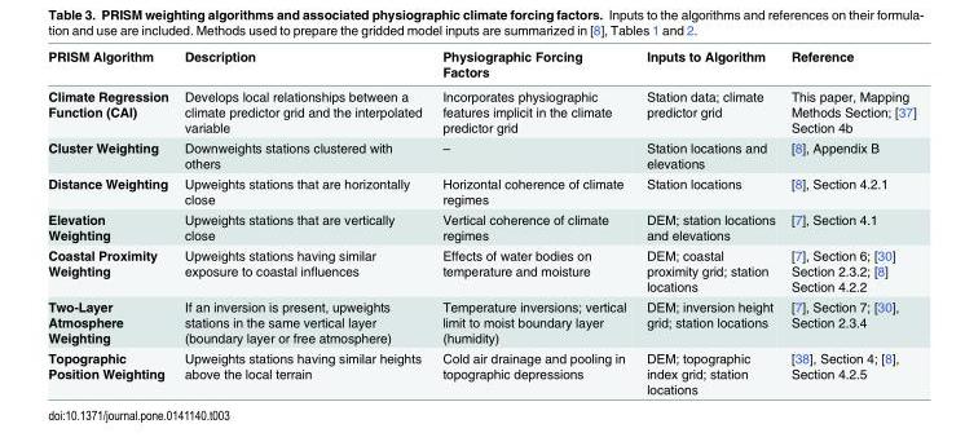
<table><thead><tr><td>PRISM Algorithm</td><td>Description</td><td>Physiographic Forcing Factors</td><td>Inputs to Algorithm</td><td>Reference</td></tr></thead><tbody><tr><td>Climate Regression Function (CAI)</td><td>Develops local relationships between a climate predictor grid and the interpolated variable</td><td>Incorporates physiographic features implicit in the climate predictor grid</td><td>Station data; climate predictor grid</td><td>This paper, Mapping Methods Section; [37] Section 4b</td></tr><tr><td>Cluster Weighting</td><td>Downweights stations clustered with others</td><td>–</td><td>Station locations and elevations</td><td>[8], Appendix B</td></tr><tr><td>Distance Weighting</td><td>Upweights stations that are horizontally close</td><td>Horizontal coherence of climate regimes</td><td>Station locations</td><td>[8], Section 4.2.1</td></tr><tr><td>Elevation Weighting</td><td>Upweights stations that are vertically close</td><td>Vertical coherence of climate regimes</td><td>DEM; station locations and elevations</td><td>[7], Section 4.1</td></tr><tr><td>Coastal Proximity Weighting</td><td>Upweights stations having similar exposure to coastal influences</td><td>Effects of water bodies on temperature and moisture</td><td>DEM; coastal proximity grid; station locations</td><td>[7], Section 6; [30] Section 2.3.2; [8] Section 4.2.2</td></tr><tr><td>Two-Layer Atmosphere Weighting</td><td>If an inversion is present, upweights stations in the same vertical layer (boundary layer or free atmosphere)</td><td>Temperature inversions; vertical limit to moist boundary layer (humidity)</td><td>DEM; inversion height grid; station locations</td><td>[7], Section 7; [30], Section 2.3.4</td></tr><tr><td>Topographic Position Weighting</td><td>Upweights stations having similar heights above the local terrain</td><td>Cold air drainage and pooling in topographic depressions</td><td>DEM; topographic index grid; station locations</td><td>[38], Section 4; [8], Section 4.2.5</td></tr></tbody></table>